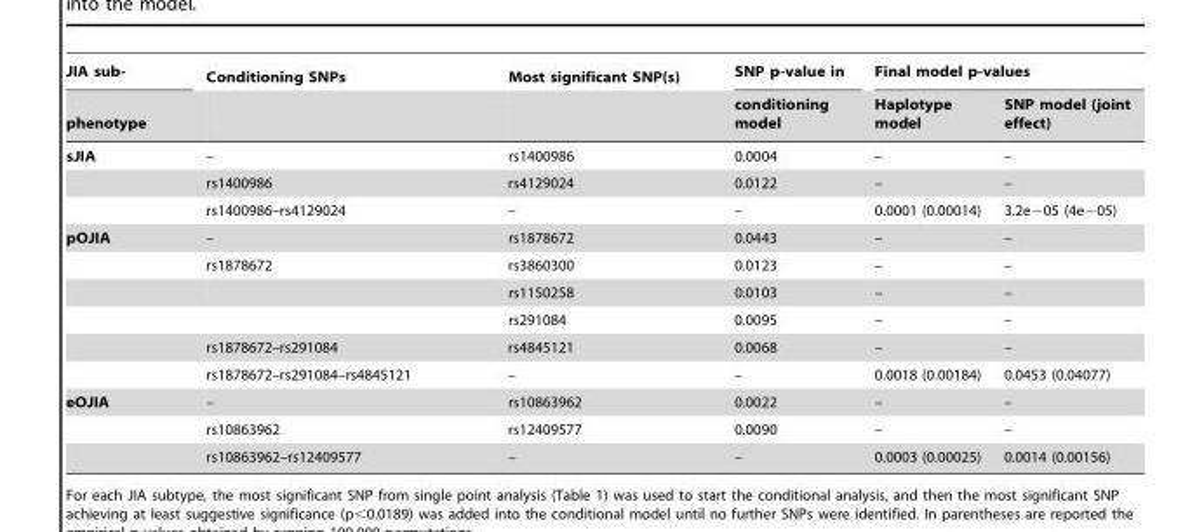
<table><thead><tr><td rowspan="2">JIA sub- phenotype</td><td rowspan="2">Conditioning SNPs</td><td rowspan="2">Most significant SNP(s)</td><td rowspan="2">SNP p-value in conditioning model</td><td colspan="2">Final model p-values</td></tr><tr><td>Haplotype model</td><td>SNP model (joint effect)</td></tr></thead><tbody><tr><td rowspan="3">sJIA</td><td>–</td><td>rs1400986</td><td>0.0004</td><td>–</td><td>–</td></tr><tr><td>rs1400986</td><td>rs4129024</td><td>0.0122</td><td>–</td><td>–</td></tr><tr><td>rs1400986–rs4129024</td><td>–</td><td>–</td><td>0.0001 (0.00014)</td><td>3.2e−05 (4e−05)</td></tr><tr><td rowspan="6">pOJIA</td><td>–</td><td>rs1878672</td><td>0.0443</td><td>–</td><td>–</td></tr><tr><td>rs1878672</td><td>rs3860300</td><td>0.0123</td><td>–</td><td>–</td></tr><tr><td></td><td>rs1150258</td><td>0.0103</td><td>–</td><td>–</td></tr><tr><td></td><td>rs291084</td><td>0.0095</td><td>–</td><td>–</td></tr><tr><td>rs1878672–rs291084</td><td>rs4845121</td><td>0.0068</td><td>–</td><td>–</td></tr><tr><td>rs1878672–rs291084–rs4845121</td><td>–</td><td>–</td><td>0.0018 (0.00184)</td><td>0.0453 (0.04077)</td></tr><tr><td rowspan="3">eOJIA</td><td>–</td><td>rs10863962</td><td>0.0022</td><td>–</td><td>–</td></tr><tr><td>rs10863962</td><td>rs12409577</td><td>0.0090</td><td>–</td><td>–</td></tr><tr><td>rs10863962–rs12409577</td><td>–</td><td>–</td><td>0.0003 (0.00025)</td><td>0.0014 (0.00156)</td></tr></tbody></table>